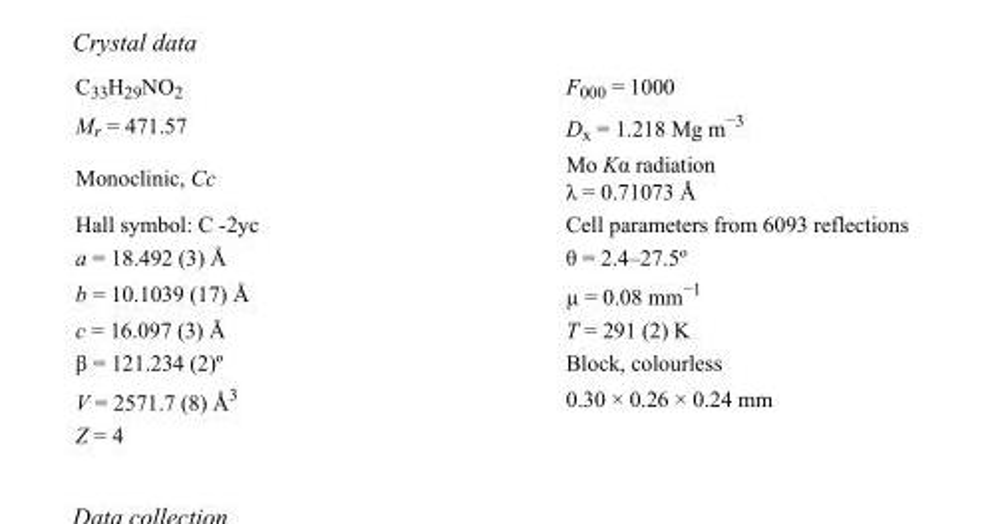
<table><tbody><tr><td>C<sub>33</sub>H<sub>29</sub>NO<sub>2</sub></td><td>F000 = 1000</td></tr><tr><td>M<sub>r</sub> = 471.57</td><td>D<sub>x</sub> = 1.218 Mg m<sup>−3</sup></td></tr><tr><td>Monoclinic, Cc</td><td>Mo Kα radiation λ = 0.71073 Å</td></tr><tr><td>Hall symbol: C -2yc</td><td>Cell parameters from 6093 reflections</td></tr><tr><td>a = 18.492 (3) Å</td><td>θ = 2.4–27.5º</td></tr><tr><td>b = 10.1039 (17) Å</td><td>µ = 0.08 mm<sup>−1</sup></td></tr><tr><td>c = 16.097 (3) Å</td><td>T = 291 (2) K</td></tr><tr><td>β = 121.234 (2)º</td><td>Block, colourless</td></tr><tr><td>V = 2571.7 (8) Å<sup>3</sup></td><td>0.30 × 0.26 × 0.24 mm</td></tr><tr><td>Z = 4</td><td></td></tr></tbody></table>